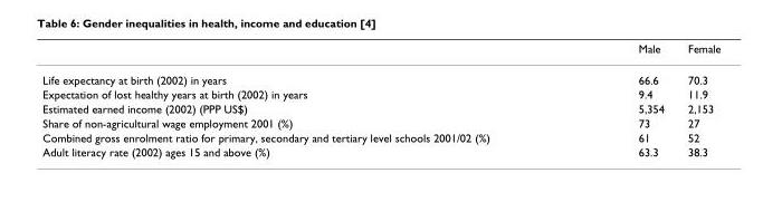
<table><thead><tr><td></td><td>Male</td><td>Female</td></tr></thead><tbody><tr><td>Life expectancy at birth (2002) in years</td><td>66.6</td><td>70.3</td></tr><tr><td>Expectation of lost healthy years at birth (2002) in years</td><td>9.4</td><td>11.9</td></tr><tr><td>Estimated earned income (2002) (PPP US$)</td><td>5,354</td><td>2,153</td></tr><tr><td>Share of non-agricultural wage employment 2001 (%)</td><td>73</td><td>27</td></tr><tr><td>Combined gross enrolment ratio for primary, secondary and tertiary level schools 2001/02 (%)</td><td>61</td><td>52</td></tr><tr><td>Adult literacy rate (2002) ages 15 and above (%)</td><td>63.3</td><td>38.3</td></tr></tbody></table>